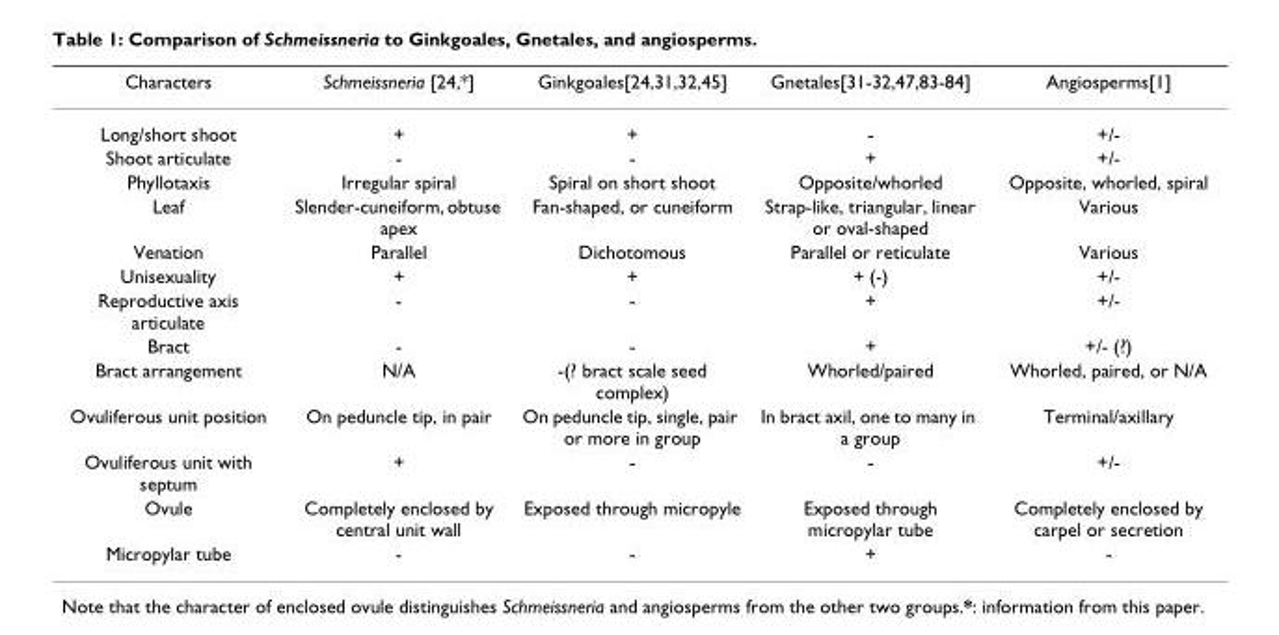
<table><thead><tr><td>Characters</td><td>Schmeissneria [24,*]</td><td>Ginkgoales[24,31,32,45]</td><td>Gnetales[31-32,47,83-84]</td><td>Angiosperms[1]</td></tr></thead><tbody><tr><td>Long/short shoot</td><td>+</td><td>+</td><td>-</td><td>+/-</td></tr><tr><td>Shoot articulate</td><td>-</td><td>-</td><td>+</td><td>+/-</td></tr><tr><td>Phyllotaxis</td><td>Irregular spiral</td><td>Spiral on short shoot</td><td>Opposite/whorled</td><td>Opposite, whorled, spiral</td></tr><tr><td>Leaf</td><td>Slender-cuneiform, obtuse apex</td><td>Fan-shaped, or cuneiform</td><td>Strap-like, triangular, linear or oval-shaped</td><td>Various</td></tr><tr><td>Venation</td><td>Parallel</td><td>Dichotomous</td><td>Parallel or reticulate</td><td>Various</td></tr><tr><td>Unisexuality</td><td>+</td><td>+</td><td>+ (-)</td><td>+/-</td></tr><tr><td>Reproductive axis articulate</td><td>-</td><td>-</td><td>+</td><td>+/-</td></tr><tr><td>Bract</td><td>-</td><td>-</td><td>+</td><td>+/- (?)</td></tr><tr><td>Bract arrangement</td><td>N/A</td><td>-(? bract scale seed complex)</td><td>Whorled/paired</td><td>Whorled, paired, or N/A</td></tr><tr><td>Ovuliferous unit position</td><td>On peduncle tip, in pair</td><td>On peduncle tip, single, pair or more in group</td><td>In bract axil, one to many in a group</td><td>Terminal/axillary</td></tr><tr><td>Ovuliferous unit with septum</td><td>+</td><td>-</td><td>-</td><td>+/-</td></tr><tr><td>Ovule</td><td>Completely enclosed by central unit wall</td><td>Exposed through micropyle</td><td>Exposed through micropylar tube</td><td>Completely enclosed by carpel or secretion</td></tr><tr><td>Micropylar tube</td><td>-</td><td>-</td><td>+</td><td>-</td></tr></tbody></table>